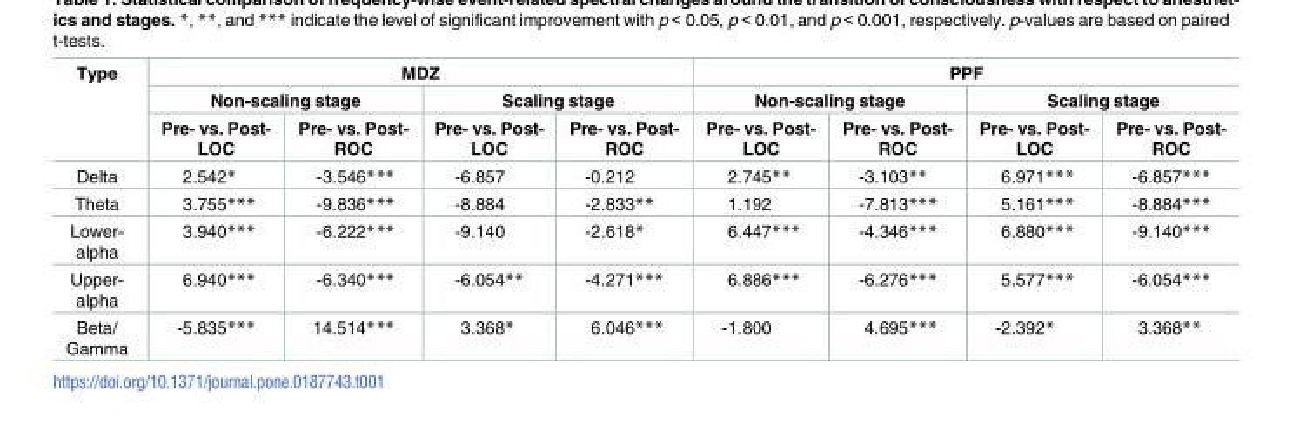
<table><thead><tr><td rowspan="3">Type</td><td colspan="4">MDZ</td><td colspan="4">PPF</td></tr><tr><td colspan="2">Non-scaling stage</td><td colspan="2">Scaling stage</td><td colspan="2">Non-scaling stage</td><td colspan="2">Scaling stage</td></tr><tr><td>Pre- vs. Post- LOC</td><td>Pre- vs. Post- ROC</td><td>Pre- vs. Post- LOC</td><td>Pre- vs. Post- ROC</td><td>Pre- vs. Post- LOC</td><td>Pre- vs. Post- ROC</td><td>Pre- vs. Post- LOC</td><td>Pre- vs. Post- ROC</td></tr></thead><tbody><tr><td>Delta</td><td>2.542*</td><td>-3.546***</td><td>-6.857</td><td>-0.212</td><td>2.745**</td><td>-3.103**</td><td>6.971***</td><td>-6.857***</td></tr><tr><td>Theta</td><td>3.755***</td><td>-9.836***</td><td>-8.884</td><td>-2.833**</td><td>1.192</td><td>-7.813***</td><td>5.161***</td><td>-8.884***</td></tr><tr><td>Lower- alpha</td><td>3.940***</td><td>-6.222***</td><td>-9.140</td><td>-2.618*</td><td>6.447***</td><td>-4.346***</td><td>6.880***</td><td>-9.140***</td></tr><tr><td>Upper- alpha</td><td>6.940***</td><td>-6.340***</td><td>-6.054**</td><td>-4.271***</td><td>6.886***</td><td>-6.276***</td><td>5.577***</td><td>-6.054***</td></tr><tr><td>Beta/ Gamma</td><td>-5.835***</td><td>14.514***</td><td>3.368*</td><td>6.046***</td><td>-1.800</td><td>4.695***</td><td>-2.392*</td><td>3.368**</td></tr></tbody></table>